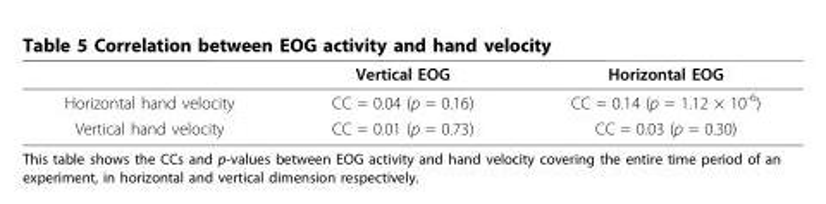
<table><thead><tr><td></td><td>Vertical EOG</td><td>Horizontal EOG</td></tr></thead><tbody><tr><td>Horizontal hand velocity</td><td>CC = 0.04 (p = 0.16)</td><td>CC = 0.14 (p = 1.12 × 10<sup>-6</sup>)</td></tr><tr><td>Vertical hand velocity</td><td>CC = 0.01 (p = 0.73)</td><td>CC = 0.03 (p = 0.30)</td></tr></tbody></table>